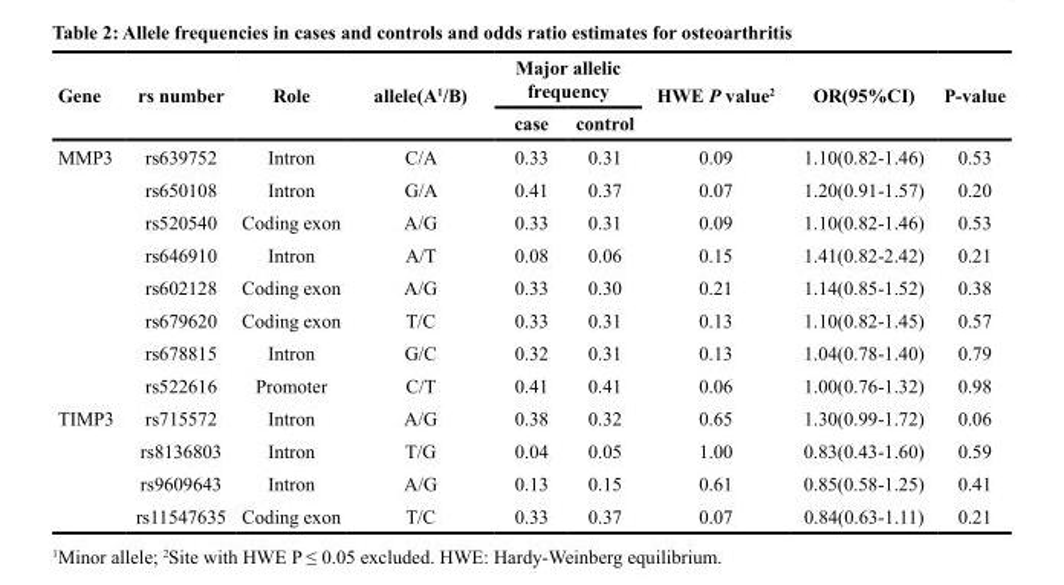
<table><thead><tr><td rowspan="2">Gene</td><td rowspan="2">rs number</td><td rowspan="2">Role</td><td rowspan="2">allele(A<sup>1</sup>/B)</td><td colspan="2">Major allelic frequency</td><td rowspan="2">HWE P value<sup>2</sup></td><td rowspan="2">OR(95%CI)</td><td rowspan="2">P-value</td></tr><tr><td>case</td><td>control</td></tr></thead><tbody><tr><td rowspan="8">MMP3</td><td>rs639752</td><td>Intron</td><td>C/A</td><td>0.33</td><td>0.31</td><td>0.09</td><td>1.10(0.82-1.46)</td><td>0.53</td></tr><tr><td>rs650108</td><td>Intron</td><td>G/A</td><td>0.41</td><td>0.37</td><td>0.07</td><td>1.20(0.91-1.57)</td><td>0.20</td></tr><tr><td>rs520540</td><td>Coding exon</td><td>A/G</td><td>0.33</td><td>0.31</td><td>0.09</td><td>1.10(0.82-1.46)</td><td>0.53</td></tr><tr><td>rs646910</td><td>Intron</td><td>A/T</td><td>0.08</td><td>0.06</td><td>0.15</td><td>1.41(0.82-2.42)</td><td>0.21</td></tr><tr><td>rs602128</td><td>Coding exon</td><td>A/G</td><td>0.33</td><td>0.30</td><td>0.21</td><td>1.14(0.85-1.52)</td><td>0.38</td></tr><tr><td>rs679620</td><td>Coding exon</td><td>T/C</td><td>0.33</td><td>0.31</td><td>0.13</td><td>1.10(0.82-1.45)</td><td>0.57</td></tr><tr><td>rs678815</td><td>Intron</td><td>G/C</td><td>0.32</td><td>0.31</td><td>0.13</td><td>1.04(0.78-1.40)</td><td>0.79</td></tr><tr><td>rs522616</td><td>Promoter</td><td>C/T</td><td>0.41</td><td>0.41</td><td>0.06</td><td>1.00(0.76-1.32)</td><td>0.98</td></tr><tr><td rowspan="4">TIMP3</td><td>rs715572</td><td>Intron</td><td>A/G</td><td>0.38</td><td>0.32</td><td>0.65</td><td>1.30(0.99-1.72)</td><td>0.06</td></tr><tr><td>rs8136803</td><td>Intron</td><td>T/G</td><td>0.04</td><td>0.05</td><td>1.00</td><td>0.83(0.43-1.60)</td><td>0.59</td></tr><tr><td>rs9609643</td><td>Intron</td><td>A/G</td><td>0.13</td><td>0.15</td><td>0.61</td><td>0.85(0.58-1.25)</td><td>0.41</td></tr><tr><td>rs11547635</td><td>Coding exon</td><td>T/C</td><td>0.33</td><td>0.37</td><td>0.07</td><td>0.84(0.63-1.11)</td><td>0.21</td></tr></tbody></table>